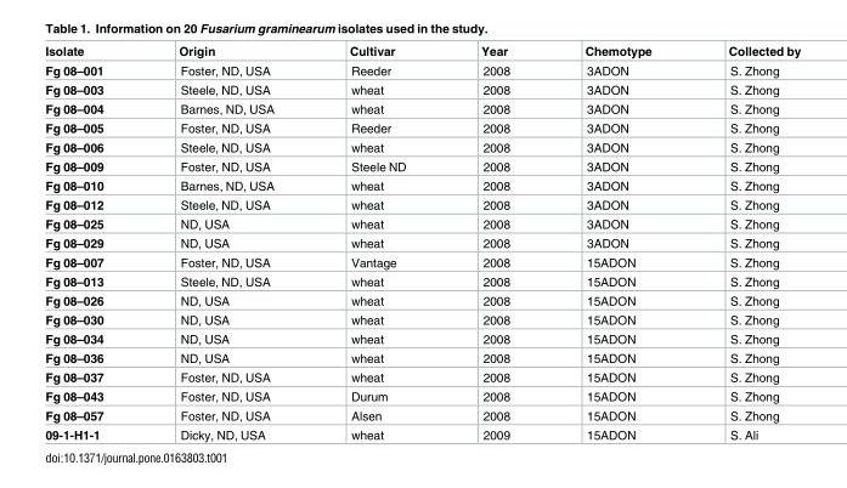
<table><thead><tr><td>Isolate</td><td>Origin</td><td>Cultivar</td><td>Year</td><td>Chemotype</td><td>Collected by</td></tr></thead><tbody><tr><td>Fg 08–001</td><td>Foster, ND, USA</td><td>Reeder</td><td>2008</td><td>3ADON</td><td>S. Zhong</td></tr><tr><td>Fg 08–003</td><td>Steele, ND, USA</td><td>wheat</td><td>2008</td><td>3ADON</td><td>S. Zhong</td></tr><tr><td>Fg 08–004</td><td>Barnes, ND, USA</td><td>wheat</td><td>2008</td><td>3ADON</td><td>S. Zhong</td></tr><tr><td>Fg 08–005</td><td>Foster, ND, USA</td><td>Reeder</td><td>2008</td><td>3ADON</td><td>S. Zhong</td></tr><tr><td>Fg 08–006</td><td>Steele, ND, USA</td><td>wheat</td><td>2008</td><td>3ADON</td><td>S. Zhong</td></tr><tr><td>Fg 08–009</td><td>Foster, ND, USA</td><td>Steele ND</td><td>2008</td><td>3ADON</td><td>S. Zhong</td></tr><tr><td>Fg 08–010</td><td>Barnes, ND, USA</td><td>wheat</td><td>2008</td><td>3ADON</td><td>S. Zhong</td></tr><tr><td>Fg 08–012</td><td>Steele, ND, USA</td><td>wheat</td><td>2008</td><td>3ADON</td><td>S. Zhong</td></tr><tr><td>Fg 08–025</td><td>ND, USA</td><td>wheat</td><td>2008</td><td>3ADON</td><td>S. Zhong</td></tr><tr><td>Fg 08–029</td><td>ND, USA</td><td>wheat</td><td>2008</td><td>3ADON</td><td>S. Zhong</td></tr><tr><td>Fg 08–007</td><td>Foster, ND, USA</td><td>Vantage</td><td>2008</td><td>15ADON</td><td>S. Zhong</td></tr><tr><td>Fg 08–013</td><td>Steele, ND, USA</td><td>wheat</td><td>2008</td><td>15ADON</td><td>S. Zhong</td></tr><tr><td>Fg 08–026</td><td>ND, USA</td><td>wheat</td><td>2008</td><td>15ADON</td><td>S. Zhong</td></tr><tr><td>Fg 08–030</td><td>ND, USA</td><td>wheat</td><td>2008</td><td>15ADON</td><td>S. Zhong</td></tr><tr><td>Fg 08–034</td><td>ND, USA</td><td>wheat</td><td>2008</td><td>15ADON</td><td>S. Zhong</td></tr><tr><td>Fg 08–036</td><td>ND, USA</td><td>wheat</td><td>2008</td><td>15ADON</td><td>S. Zhong</td></tr><tr><td>Fg 08–037</td><td>Foster, ND, USA</td><td>wheat</td><td>2008</td><td>15ADON</td><td>S. Zhong</td></tr><tr><td>Fg 08–043</td><td>Foster, ND, USA</td><td>Durum</td><td>2008</td><td>15ADON</td><td>S. Zhong</td></tr><tr><td>Fg 08–057</td><td>Foster, ND, USA</td><td>Alsen</td><td>2008</td><td>15ADON</td><td>S. Zhong</td></tr><tr><td>09-1-H1-1</td><td>Dicky, ND, USA</td><td>wheat</td><td>2009</td><td>15ADON</td><td>S. Ali</td></tr></tbody></table>